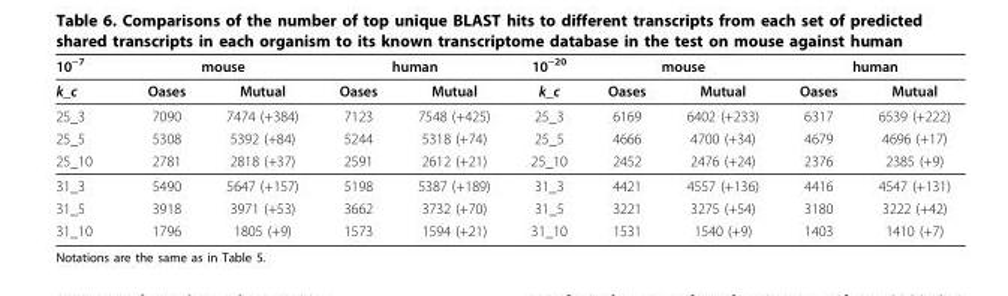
<table><thead><tr><td rowspan="2">10−7 k_c</td><td colspan="2">mouse</td><td colspan="2">human</td><td rowspan="2">10−20 k_c</td><td colspan="2">mouse</td><td colspan="2">human</td></tr><tr><td>Oases</td><td>Mutual</td><td>Oases</td><td>Mutual</td><td>Oases</td><td>Mutual</td><td>Oases</td><td>Mutual</td></tr></thead><tbody><tr><td>25_3</td><td>7090</td><td>7474 (+384)</td><td>7123</td><td>7548 (+425)</td><td>25_3</td><td>6169</td><td>6402 (+233)</td><td>6317</td><td>6539 (+222)</td></tr><tr><td>25_5</td><td>5308</td><td>5392 (+84)</td><td>5244</td><td>5318 (+74)</td><td>25_5</td><td>4666</td><td>4700 (+34)</td><td>4679</td><td>4696 (+17)</td></tr><tr><td>25_10</td><td>2781</td><td>2818 (+37)</td><td>2591</td><td>2612 (+21)</td><td>25_10</td><td>2452</td><td>2476 (+24)</td><td>2376</td><td>2385 (+9)</td></tr><tr><td>31_3</td><td>5490</td><td>5647 (+157)</td><td>5198</td><td>5387 (+189)</td><td>31_3</td><td>4421</td><td>4557 (+136)</td><td>4416</td><td>4547 (+131)</td></tr><tr><td>31_5</td><td>3918</td><td>3971 (+53)</td><td>3662</td><td>3732 (+70)</td><td>31_5</td><td>3221</td><td>3275 (+54)</td><td>3180</td><td>3222 (+42)</td></tr><tr><td>31_10</td><td>1796</td><td>1805 (+9)</td><td>1573</td><td>1594 (+21)</td><td>31_10</td><td>1531</td><td>1540 (+9)</td><td>1403</td><td>1410 (+7)</td></tr></tbody></table>